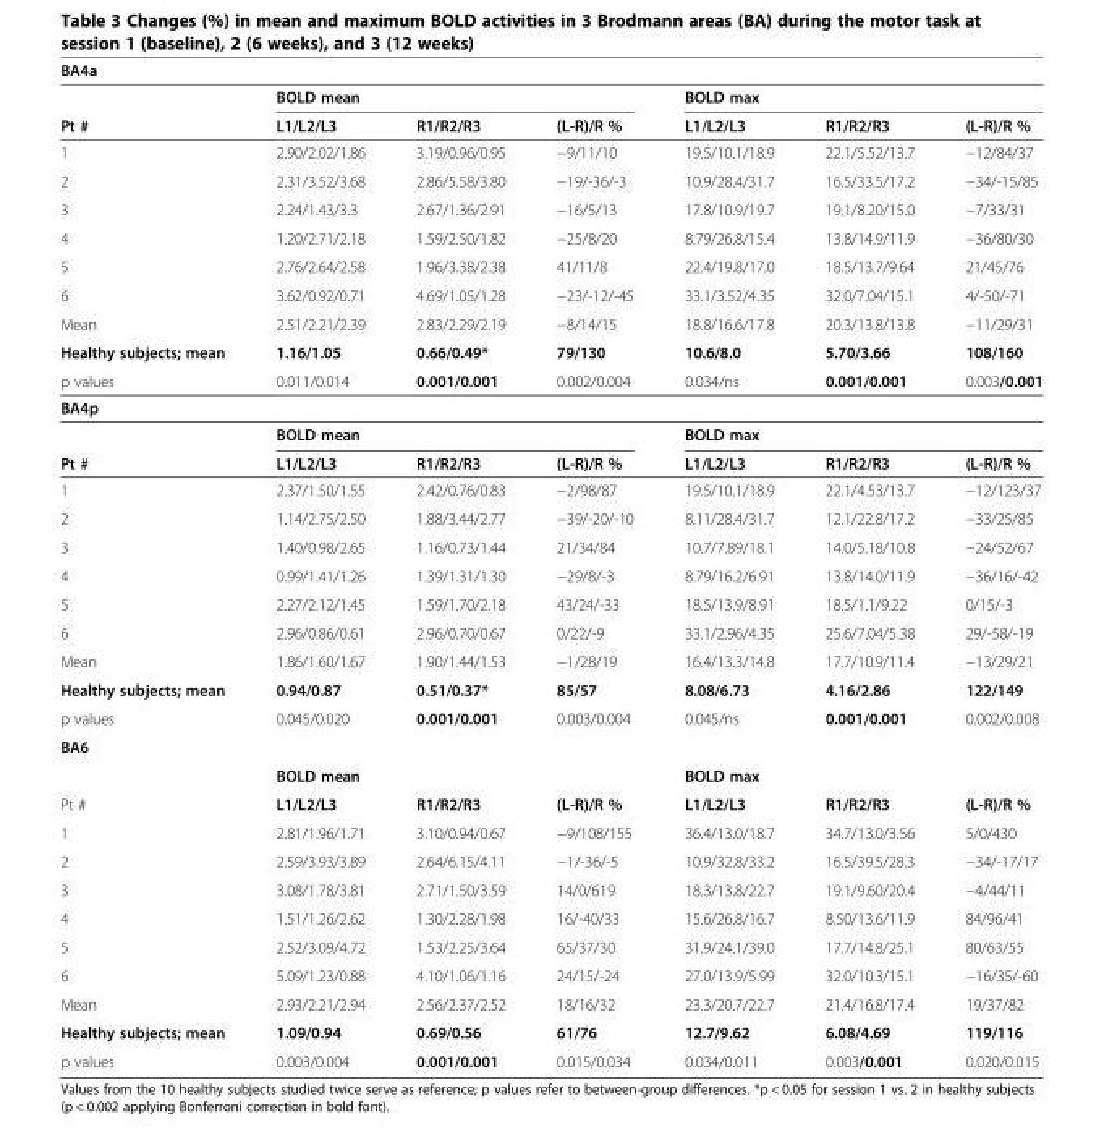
<table><tbody><tr><td colspan="7">BA4a</td></tr><tr><td></td><td colspan="3">BOLD mean</td><td colspan="3">BOLD max</td></tr><tr><td>Pt #</td><td>L1/L2/L3</td><td>R1/R2/R3</td><td>(L-R)/R %</td><td>L1/L2/L3</td><td>R1/R2/R3</td><td>(L-R)/R %</td></tr><tr><td>1</td><td>2.90/2.02/1.86</td><td>3.19/0.96/0.95</td><td>−9/11/10</td><td>19.5/10.1/18.9</td><td>22.1/5.52/13.7</td><td>−12/84/37</td></tr><tr><td>2</td><td>2.31/3.52/3.68</td><td>2.86/5.58/3.80</td><td>−19/-36/-3</td><td>10.9/28.4/31.7</td><td>16.5/33.5/17.2</td><td>−34/-15/85</td></tr><tr><td>3</td><td>2.24/1.43/3.3</td><td>2.67/1.36/2.91</td><td>−16/5/13</td><td>17.8/10.9/19.7</td><td>19.1/8.20/15.0</td><td>−7/33/31</td></tr><tr><td>4</td><td>1.20/2.71/2.18</td><td>1.59/2.50/1.82</td><td>−25/8/20</td><td>8.79/26.8/15.4</td><td>13.8/14.9/11.9</td><td>−36/80/30</td></tr><tr><td>5</td><td>2.76/2.64/2.58</td><td>1.96/3.38/2.38</td><td>41/11/8</td><td>22.4/19.8/17.0</td><td>18.5/13.7/9.64</td><td>21/45/76</td></tr><tr><td>6</td><td>3.62/0.92/0.71</td><td>4.69/1.05/1.28</td><td>−23/-12/-45</td><td>33.1/3.52/4.35</td><td>32.0/7.04/15.1</td><td>4/-50/-71</td></tr><tr><td>Mean</td><td>2.51/2.21/2.39</td><td>2.83/2.29/2.19</td><td>−8/14/15</td><td>18.8/16.6/17.8</td><td>20.3/13.8/13.8</td><td>−11/29/31</td></tr><tr><td>Healthy subjects; mean</td><td>1.16/1.05</td><td>0.66/0.49*</td><td>79/130</td><td>10.6/8.0</td><td>5.70/3.66</td><td>108/160</td></tr><tr><td>p values</td><td>0.011/0.014</td><td>0.001/0.001</td><td>0.002/0.004</td><td>0.034/ns</td><td>0.001/0.001</td><td>0.003/0.001</td></tr><tr><td colspan="7">BA4p</td></tr><tr><td></td><td colspan="3">BOLD mean</td><td colspan="3">BOLD max</td></tr><tr><td>Pt #</td><td>L1/L2/L3</td><td>R1/R2/R3</td><td>(L-R)/R %</td><td>L1/L2/L3</td><td>R1/R2/R3</td><td>(L-R)/R %</td></tr><tr><td>1</td><td>2.37/1.50/1.55</td><td>2.42/0.76/0.83</td><td>−2/98/87</td><td>19.5/10.1/18.9</td><td>22.1/4.53/13.7</td><td>−12/123/37</td></tr><tr><td>2</td><td>1.14/2.75/2.50</td><td>1.88/3.44/2.77</td><td>−39/-20/-10</td><td>8.11/28.4/31.7</td><td>12.1/22.8/17.2</td><td>−33/25/85</td></tr><tr><td>3</td><td>1.40/0.98/2.65</td><td>1.16/0.73/1.44</td><td>21/34/84</td><td>10.7/7.89/18.1</td><td>14.0/5.18/10.8</td><td>−24/52/67</td></tr><tr><td>4</td><td>0.99/1.41/1.26</td><td>1.39/1.31/1.30</td><td>−29/8/-3</td><td>8.79/16.2/6.91</td><td>13.8/14.0/11.9</td><td>−36/16/-42</td></tr><tr><td>5</td><td>2.27/2.12/1.45</td><td>1.59/1.70/2.18</td><td>43/24/-33</td><td>18.5/13.9/8.91</td><td>18.5/1.1/9.22</td><td>0/15/-3</td></tr><tr><td>6</td><td>2.96/0.86/0.61</td><td>2.96/0.70/0.67</td><td>0/22/-9</td><td>33.1/2.96/4.35</td><td>25.6/7.04/5.38</td><td>29/-58/-19</td></tr><tr><td>Mean</td><td>1.86/1.60/1.67</td><td>1.90/1.44/1.53</td><td>−1/28/19</td><td>16.4/13.3/14.8</td><td>17.7/10.9/11.4</td><td>−13/29/21</td></tr><tr><td>Healthy subjects; mean</td><td>0.94/0.87</td><td>0.51/0.37*</td><td>85/57</td><td>8.08/6.73</td><td>4.16/2.86</td><td>122/149</td></tr><tr><td>p values</td><td>0.045/0.020</td><td>0.001/0.001</td><td>0.003/0.004</td><td>0.045/ns</td><td>0.001/0.001</td><td>0.002/0.008</td></tr><tr><td colspan="7">BA6</td></tr><tr><td></td><td colspan="3">BOLD mean</td><td colspan="3">BOLD max</td></tr><tr><td>Pt #</td><td>L1/L2/L3</td><td>R1/R2/R3</td><td>(L-R)/R %</td><td>L1/L2/L3</td><td>R1/R2/R3</td><td>(L-R)/R %</td></tr><tr><td>1</td><td>2.81/1.96/1.71</td><td>3.10/0.94/0.67</td><td>−9/108/155</td><td>36.4/13.0/18.7</td><td>34.7/13.0/3.56</td><td>5/0/430</td></tr><tr><td>2</td><td>2.59/3.93/3.89</td><td>2.64/6.15/4.11</td><td>−1/-36/-5</td><td>10.9/32.8/33.2</td><td>16.5/39.5/28.3</td><td>−34/-17/17</td></tr><tr><td>3</td><td>3.08/1.78/3.81</td><td>2.71/1.50/3.59</td><td>14/0/619</td><td>18.3/13.8/22.7</td><td>19.1/9.60/20.4</td><td>−4/44/11</td></tr><tr><td>4</td><td>1.51/1.26/2.62</td><td>1.30/2.28/1.98</td><td>16/-40/33</td><td>15.6/26.8/16.7</td><td>8.50/13.6/11.9</td><td>84/96/41</td></tr><tr><td>5</td><td>2.52/3.09/4.72</td><td>1.53/2.25/3.64</td><td>65/37/30</td><td>31.9/24.1/39.0</td><td>17.7/14.8/25.1</td><td>80/63/55</td></tr><tr><td>6</td><td>5.09/1.23/0.88</td><td>4.10/1.06/1.16</td><td>24/15/-24</td><td>27.0/13.9/5.99</td><td>32.0/10.3/15.1</td><td>−16/35/-60</td></tr><tr><td>Mean</td><td>2.93/2.21/2.94</td><td>2.56/2.37/2.52</td><td>18/16/32</td><td>23.3/20.7/22.7</td><td>21.4/16.8/17.4</td><td>19/37/82</td></tr><tr><td>Healthy subjects; mean</td><td>1.09/0.94</td><td>0.69/0.56</td><td>61/76</td><td>12.7/9.62</td><td>6.08/4.69</td><td>119/116</td></tr><tr><td>p values</td><td>0.003/0.004</td><td>0.001/0.001</td><td>0.015/0.034</td><td>0.034/0.011</td><td>0.003/0.001</td><td>0.020/0.015</td></tr></tbody></table>